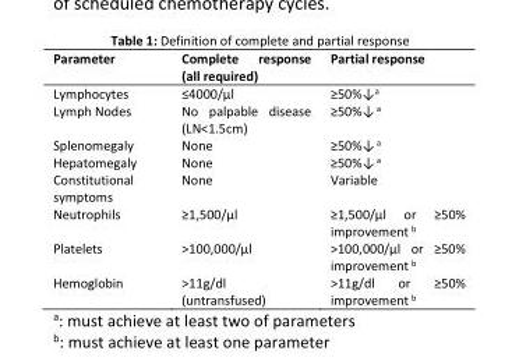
<table><thead><tr><td>Parameter</td><td>Complete response (all required)</td><td>Partial response</td></tr></thead><tbody><tr><td>Lymphocytes</td><td>≤4000/µl</td><td>≥50%↓<sup>a</sup></td></tr><tr><td>Lymph Nodes</td><td>No palpable disease (LN&lt;1.5cm)</td><td>≥50%↓ a</td></tr><tr><td>Splenomegaly</td><td>None</td><td>≥50%↓ a</td></tr><tr><td>Hepatomegaly</td><td>None</td><td>≥50%↓ a</td></tr><tr><td>Constitutional symptoms</td><td>None</td><td>Variable</td></tr><tr><td>Neutrophils</td><td>≥1,500/µl</td><td>≥1,500/µl or ≥50% improvement b</td></tr><tr><td>Platelets</td><td>&gt;100,000/µl</td><td>&gt;100,000/µl or ≥50% improvement b</td></tr><tr><td>Hemoglobin</td><td>&gt;11g/dl (untransfused)</td><td>&gt;11g/dl or ≥50% improvement b</td></tr></tbody></table>